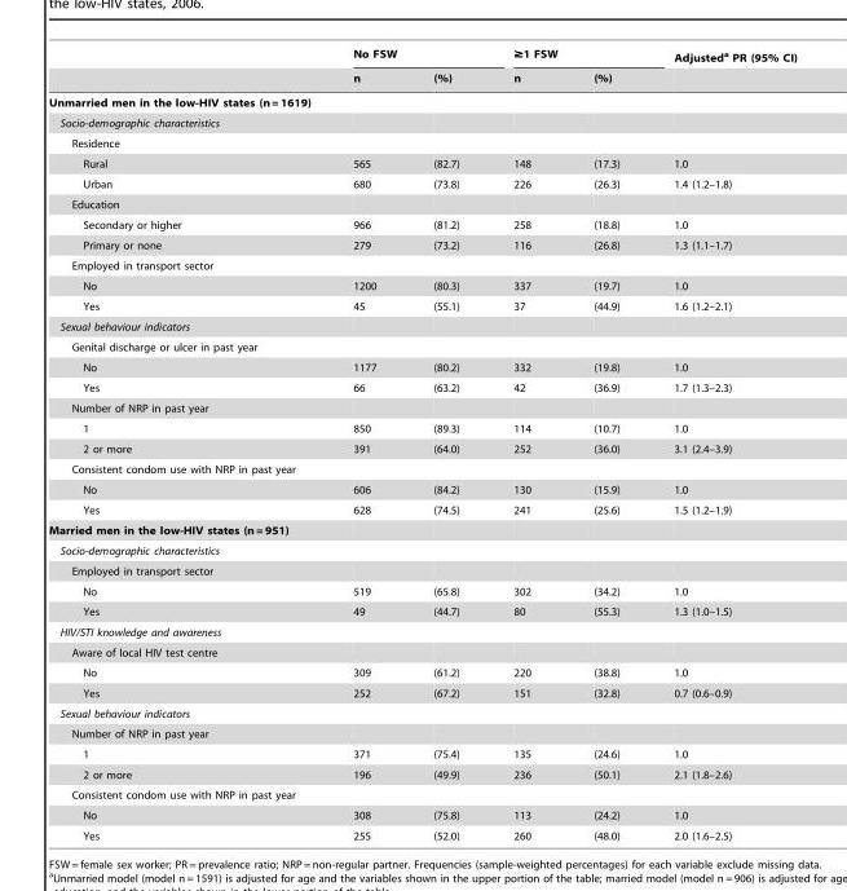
<table><thead><tr><td rowspan="2"></td><td colspan="2">No FSW</td><td colspan="2">≥1 FSW</td><td rowspan="2">Adjusted<sup>a</sup> PR (95% CI)</td></tr><tr><td>n</td><td>(%)</td><td>n</td><td>(%)</td></tr></thead><tbody><tr><td colspan="6">Unmarried men in the low-HIV states (n = 1619)</td></tr><tr><td colspan="6">Socio-demographic characteristics</td></tr><tr><td colspan="6">Residence</td></tr><tr><td>Rural</td><td>565</td><td>(82.7)</td><td>148</td><td>(17.3)</td><td>1.0</td></tr><tr><td>Urban</td><td>680</td><td>(73.8)</td><td>226</td><td>(26.3)</td><td>1.4 (1.2–1.8)</td></tr><tr><td colspan="6">Education</td></tr><tr><td>Secondary or higher</td><td>966</td><td>(81.2)</td><td>258</td><td>(18.8)</td><td>1.0</td></tr><tr><td>Primary or none</td><td>279</td><td>(73.2)</td><td>116</td><td>(26.8)</td><td>1.3 (1.1–1.7)</td></tr><tr><td colspan="6">Employed in transport sector</td></tr><tr><td>No</td><td>1200</td><td>(80.3)</td><td>337</td><td>(19.7)</td><td>1.0</td></tr><tr><td>Yes</td><td>45</td><td>(55.1)</td><td>37</td><td>(44.9)</td><td>1.6 (1.2–2.1)</td></tr><tr><td colspan="6">Sexual behaviour indicators</td></tr><tr><td colspan="6">Genital discharge or ulcer in past year</td></tr><tr><td>No</td><td>1177</td><td>(80.2)</td><td>332</td><td>(19.8)</td><td>1.0</td></tr><tr><td>Yes</td><td>66</td><td>(63.2)</td><td>42</td><td>(36.9)</td><td>1.7 (1.3–2.3)</td></tr><tr><td colspan="6">Number of NRP in past year</td></tr><tr><td>1</td><td>850</td><td>(89.3)</td><td>114</td><td>(10.7)</td><td>1.0</td></tr><tr><td>2 or more</td><td>391</td><td>(64.0)</td><td>252</td><td>(36.0)</td><td>3.1 (2.4–3.9)</td></tr><tr><td colspan="6">Consistent condom use with NRP in past year</td></tr><tr><td>No</td><td>606</td><td>(84.2)</td><td>130</td><td>(15.9)</td><td>1.0</td></tr><tr><td>Yes</td><td>628</td><td>(74.5)</td><td>241</td><td>(25.6)</td><td>1.5 (1.2–1.9)</td></tr><tr><td colspan="6">Married men in the low-HIV states (n = 951)</td></tr><tr><td colspan="6">Socio-demographic characteristics</td></tr><tr><td colspan="6">Employed in transport sector</td></tr><tr><td>No</td><td>519</td><td>(65.8)</td><td>302</td><td>(34.2)</td><td>1.0</td></tr><tr><td>Yes</td><td>49</td><td>(44.7)</td><td>80</td><td>(55.3)</td><td>1.3 (1.0–1.5)</td></tr><tr><td colspan="6">HIV/STI knowledge and awareness</td></tr><tr><td colspan="6">Aware of local HIV test centre</td></tr><tr><td>No</td><td>309</td><td>(61.2)</td><td>220</td><td>(38.8)</td><td>1.0</td></tr><tr><td>Yes</td><td>252</td><td>(67.2)</td><td>151</td><td>(32.8)</td><td>0.7 (0.6–0.9)</td></tr><tr><td colspan="6">Sexual behaviour indicators</td></tr><tr><td colspan="6">Number of NRP in past year</td></tr><tr><td>1</td><td>371</td><td>(75.4)</td><td>135</td><td>(24.6)</td><td>1.0</td></tr><tr><td>2 or more</td><td>196</td><td>(49.9)</td><td>236</td><td>(50.1)</td><td>2.1 (1.8–2.6)</td></tr><tr><td colspan="6">Consistent condom use with NRP in past year</td></tr><tr><td>No</td><td>308</td><td>(75.8)</td><td>113</td><td>(24.2)</td><td>1.0</td></tr><tr><td>Yes</td><td>255</td><td>(52.0)</td><td>260</td><td>(48.0)</td><td>2.0 (1.6–2.5)</td></tr></tbody></table>